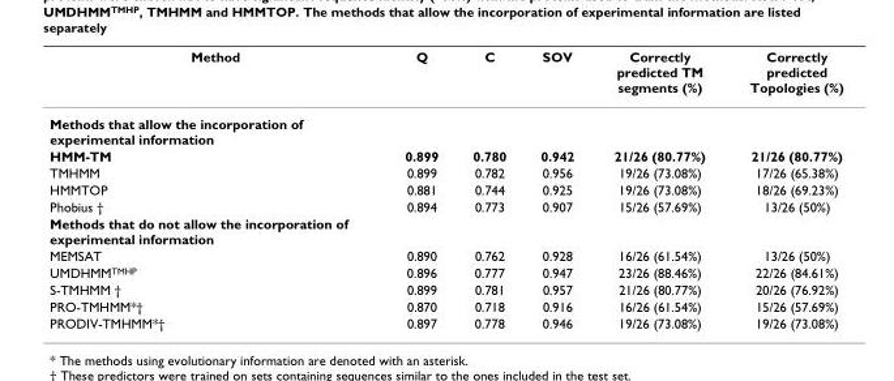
<table><thead><tr><td>Method</td><td>Q</td><td>C</td><td>SOV</td><td>Correctly predicted TM segments (%)</td><td>Correctly predicted Topologies (%)</td></tr></thead><tbody><tr><td colspan="6">Methods that allow the incorporation of experimental information</td></tr><tr><td>HMM-TM</td><td>0.899</td><td>0.780</td><td>0.942</td><td>21/26 (80.77%)</td><td>21/26 (80.77%)</td></tr><tr><td>TMHMM</td><td>0.899</td><td>0.782</td><td>0.956</td><td>19/26 (73.08%)</td><td>17/26 (65.38%)</td></tr><tr><td>HMMTOP</td><td>0.881</td><td>0.744</td><td>0.925</td><td>19/26 (73.08%)</td><td>18/26 (69.23%)</td></tr><tr><td>Phobius †</td><td>0.894</td><td>0.773</td><td>0.907</td><td>15/26 (57.69%)</td><td>13/26 (50%)</td></tr><tr><td colspan="6">Methods that do not allow the incorporation of experimental information</td></tr><tr><td>MEMSAT</td><td>0.890</td><td>0.762</td><td>0.928</td><td>16/26 (61.54%)</td><td>13/26 (50%)</td></tr><tr><td>UMDHMMTMHP</td><td>0.896</td><td>0.777</td><td>0.947</td><td>23/26 (88.46%)</td><td>22/26 (84.61%)</td></tr><tr><td>S-TMHMM †</td><td>0.899</td><td>0.781</td><td>0.957</td><td>21/26 (80.77%)</td><td>20/26 (76.92%)</td></tr><tr><td>PRO-TMHMM*†</td><td>0.870</td><td>0.718</td><td>0.916</td><td>16/26 (61.54%)</td><td>15/26 (57.69%)</td></tr><tr><td>PRODIV-TMHMM*†</td><td>0.897</td><td>0.778</td><td>0.946</td><td>19/26 (73.08%)</td><td>19/26 (73.08%)</td></tr></tbody></table>